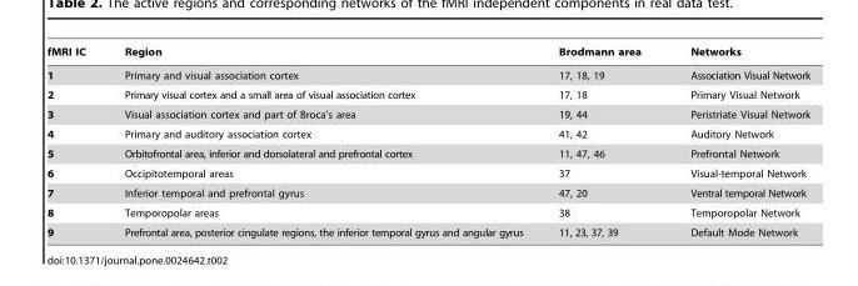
<table><thead><tr><td>fMRI IC</td><td>Region</td><td>Brodmann area</td><td>Networks</td></tr></thead><tbody><tr><td>1</td><td>Primary and visual association cortex</td><td>17, 18, 19</td><td>Association Visual Network</td></tr><tr><td>2</td><td>Primary visual cortex and a small area of visual association cortex</td><td>17, 18</td><td>Primary Visual Network</td></tr><tr><td>3</td><td>Visual association cortex and part of Broca’s area</td><td>19, 44</td><td>Peristriate Visual Network</td></tr><tr><td>4</td><td>Primary and auditory association cortex</td><td>41, 42</td><td>Auditory Network</td></tr><tr><td>5</td><td>Orbitofrontal area, inferior and dorsolateral and prefrontal cortex</td><td>11, 47, 46</td><td>Prefrontal Network</td></tr><tr><td>6</td><td>Occipitotemporal areas</td><td>37</td><td>Visual-temporal Network</td></tr><tr><td>7</td><td>Inferior temporal and prefrontal gyrus</td><td>47, 20</td><td>Ventral temporal Network</td></tr><tr><td>8</td><td>Temporopolar areas</td><td>38</td><td>Temporopolar Network</td></tr><tr><td>9</td><td>Prefrontal area, posterior cingulate regions, the inferior temporal gyrus and angular gyrus</td><td>11, 23, 37, 39</td><td>Default Mode Network</td></tr></tbody></table>